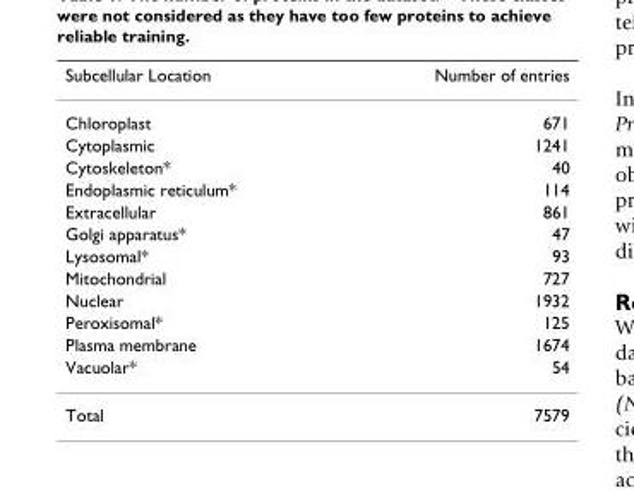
<table><thead><tr><td>Subcellular Location</td><td>Number of entries</td></tr></thead><tbody><tr><td>Chloroplast</td><td>671</td></tr><tr><td>Cytoplasmic</td><td>1241</td></tr><tr><td>Cytoskeleton*</td><td>40</td></tr><tr><td>Endoplasmic reticulum*</td><td>114</td></tr><tr><td>Extracellular</td><td>861</td></tr><tr><td>Golgi apparatus*</td><td>47</td></tr><tr><td>Lysosomal*</td><td>93</td></tr><tr><td>Mitochondrial</td><td>727</td></tr><tr><td>Nuclear</td><td>1932</td></tr><tr><td>Peroxisomal*</td><td>125</td></tr><tr><td>Plasma membrane</td><td>1674</td></tr><tr><td>Vacuolar*</td><td>54</td></tr><tr><td>Total</td><td>7579</td></tr></tbody></table>